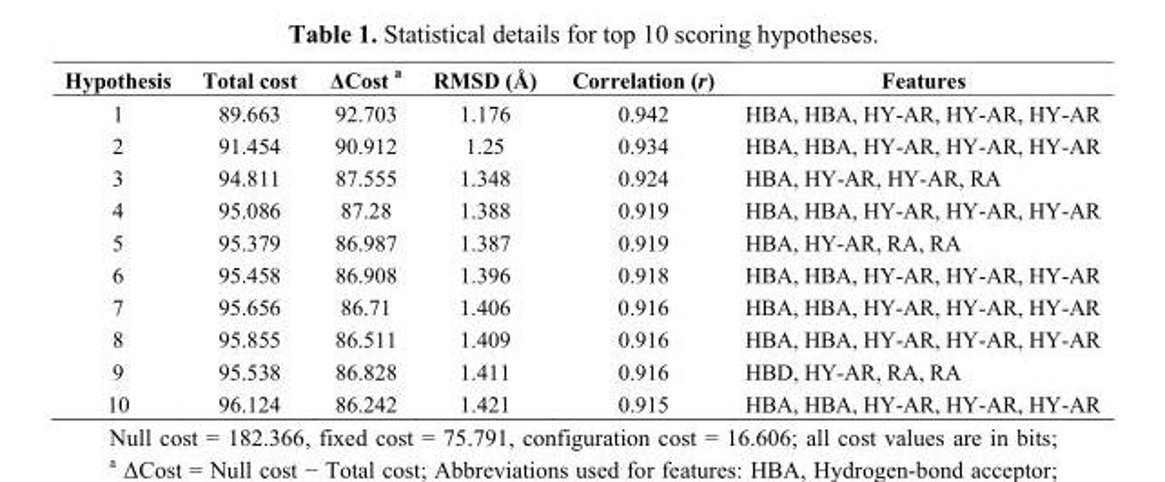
<table><thead><tr><td>Hypothesis</td><td>Total cost</td><td>ΔCost a</td><td>RMSD (Å)</td><td>Correlation (r)</td><td>Features</td></tr></thead><tbody><tr><td>1</td><td>89.663</td><td>92.703</td><td>1.176</td><td>0.942</td><td>HBA, HBA, HY-AR, HY-AR, HY-AR</td></tr><tr><td>2</td><td>91.454</td><td>90.912</td><td>1.25</td><td>0.934</td><td>HBA, HBA, HY-AR, HY-AR, HY-AR</td></tr><tr><td>3</td><td>94.811</td><td>87.555</td><td>1.348</td><td>0.924</td><td>HBA, HY-AR, HY-AR, RA</td></tr><tr><td>4</td><td>95.086</td><td>87.28</td><td>1.388</td><td>0.919</td><td>HBA, HBA, HY-AR, HY-AR, HY-AR</td></tr><tr><td>5</td><td>95.379</td><td>86.987</td><td>1.387</td><td>0.919</td><td>HBA, HY-AR, RA, RA</td></tr><tr><td>6</td><td>95.458</td><td>86.908</td><td>1.396</td><td>0.918</td><td>HBA, HBA, HY-AR, HY-AR, HY-AR</td></tr><tr><td>7</td><td>95.656</td><td>86.71</td><td>1.406</td><td>0.916</td><td>HBA, HBA, HY-AR, HY-AR, HY-AR</td></tr><tr><td>8</td><td>95.855</td><td>86.511</td><td>1.409</td><td>0.916</td><td>HBA, HBA, HY-AR, HY-AR, HY-AR</td></tr><tr><td>9</td><td>95.538</td><td>86.828</td><td>1.411</td><td>0.916</td><td>HBD, HY-AR, RA, RA</td></tr><tr><td>10</td><td>96.124</td><td>86.242</td><td>1.421</td><td>0.915</td><td>HBA, HBA, HY-AR, HY-AR, HY-AR</td></tr></tbody></table>